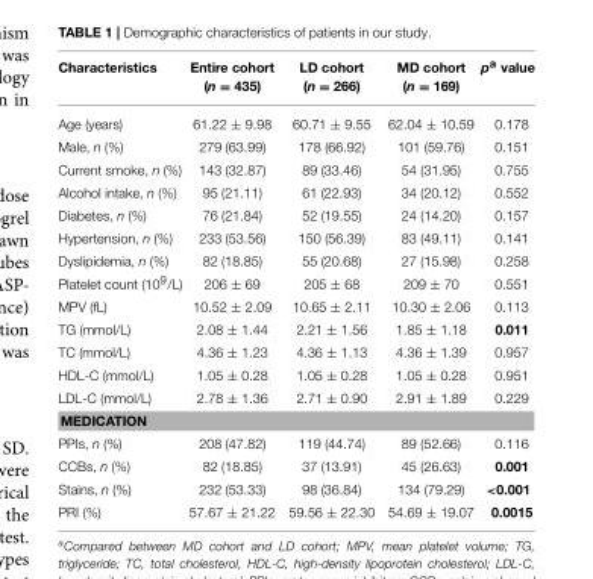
<table><thead><tr><td>Characteristics</td><td>Entire cohort (n = 435)</td><td>LD cohort (n = 266)</td><td>MD cohort (n = 169)</td><td>p<sup>a</sup> value</td></tr></thead><tbody><tr><td>Age (years)</td><td>61.22 ± 9.98</td><td>60.71 ± 9.55</td><td>62.04 ± 10.59</td><td>0.178</td></tr><tr><td>Male, n (%)</td><td>279 (63.99)</td><td>178 (66.92)</td><td>101 (59.76)</td><td>0.151</td></tr><tr><td>Current smoke, n (%)</td><td>143 (32.87)</td><td>89 (33.46)</td><td>54 (31.95)</td><td>0.755</td></tr><tr><td>Alcohol intake, n (%)</td><td>95 (21.11)</td><td>61 (22.93)</td><td>34 (20.12)</td><td>0.552</td></tr><tr><td>Diabetes, n (%)</td><td>76 (21.84)</td><td>52 (19.55)</td><td>24 (14.20)</td><td>0.157</td></tr><tr><td>Hypertension, n (%)</td><td>233 (53.56)</td><td>150 (56.39)</td><td>83 (49.11)</td><td>0.141</td></tr><tr><td>Dyslipidemia, n (%)</td><td>82 (18.85)</td><td>55 (20.68)</td><td>27 (15.98)</td><td>0.258</td></tr><tr><td>Platelet count (10<sup>9</sup>/L)</td><td>206 ± 69</td><td>205 ± 68</td><td>209 ± 70</td><td>0.551</td></tr><tr><td>MPV (fL)</td><td>10.52 ± 2.09</td><td>10.65 ± 2.11</td><td>10.30 ± 2.06</td><td>0.113</td></tr><tr><td>TG (mmol/L)</td><td>2.08 ± 1.44</td><td>2.21 ± 1.56</td><td>1.85 ± 1.18</td><td>0.011</td></tr><tr><td>TC (mmol/L)</td><td>4.36 ± 1.23</td><td>4.36 ± 1.13</td><td>4.36 ± 1.39</td><td>0.957</td></tr><tr><td>HDL-C (mmol/L)</td><td>1.05 ± 0.28</td><td>1.05 ± 0.28</td><td>1.05 ± 0.28</td><td>0.951</td></tr><tr><td>LDL-C (mmol/L)</td><td>2.78 ± 1.36</td><td>2.71 ± 0.90</td><td>2.91 ± 1.89</td><td>0.229</td></tr><tr><td colspan="5">MEDICATION</td></tr><tr><td>PPIs, n (%)</td><td>208 (47.82)</td><td>119 (44.74)</td><td>89 (52.66)</td><td>0.116</td></tr><tr><td>CCBs, n (%)</td><td>82 (18.85)</td><td>37 (13.91)</td><td>45 (26.63)</td><td>0.001</td></tr><tr><td>Stains, n (%)</td><td>232 (53.33)</td><td>98 (36.84)</td><td>134 (79.29)</td><td>&lt;0.001</td></tr><tr><td>PRI (%)</td><td>57.67 ± 21.22</td><td>59.56 ± 22.30</td><td>54.69 ± 19.07</td><td>0.0015</td></tr></tbody></table>